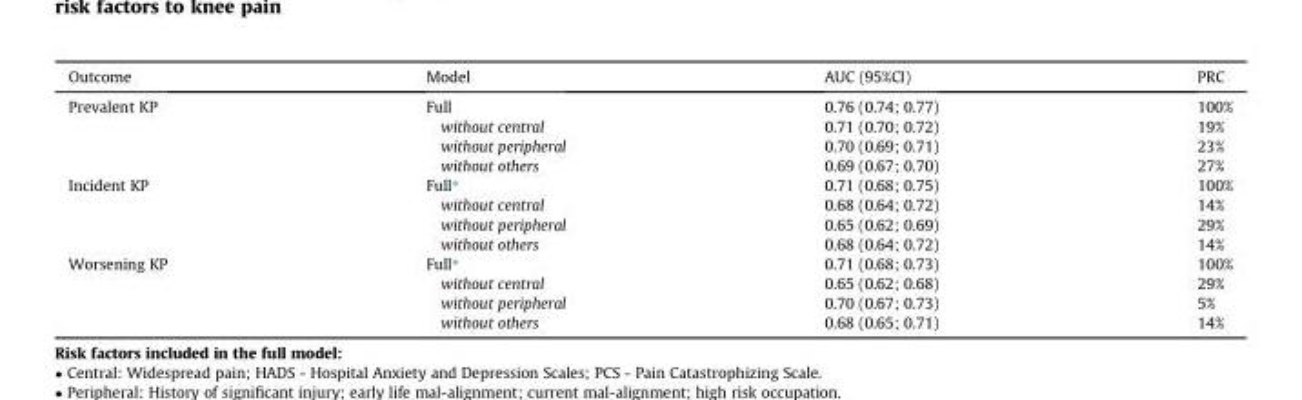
<table><thead><tr><td>Outcome</td><td>Model</td><td>AUC (95%CI)</td><td>PRC</td></tr></thead><tbody><tr><td rowspan="4">Prevalent KP</td><td>Full</td><td>0.76 (0.74; 0.77)</td><td>100%</td></tr><tr><td>without central</td><td>0.71 (0.70; 0.72)</td><td>19%</td></tr><tr><td>without peripheral</td><td>0.70 (0.69; 0.71)</td><td>23%</td></tr><tr><td>without others</td><td>0.69 (0.67; 0.70)</td><td>27%</td></tr><tr><td rowspan="4">Incident KP</td><td>Full*</td><td>0.71 (0.68; 0.75)</td><td>100%</td></tr><tr><td>without central</td><td>0.68 (0.64; 0.72)</td><td>14%</td></tr><tr><td>without peripheral</td><td>0.65 (0.62; 0.69)</td><td>29%</td></tr><tr><td>without others</td><td>0.68 (0.64; 0.72)</td><td>14%</td></tr><tr><td rowspan="4">Worsening KP</td><td>Full*</td><td>0.71 (0.68; 0.73)</td><td>100%</td></tr><tr><td>without central</td><td>0.65 (0.62; 0.68)</td><td>29%</td></tr><tr><td>without peripheral</td><td>0.70 (0.67; 0.73)</td><td>5%</td></tr><tr><td>without others</td><td>0.68 (0.65; 0.71)</td><td>14%</td></tr></tbody></table>